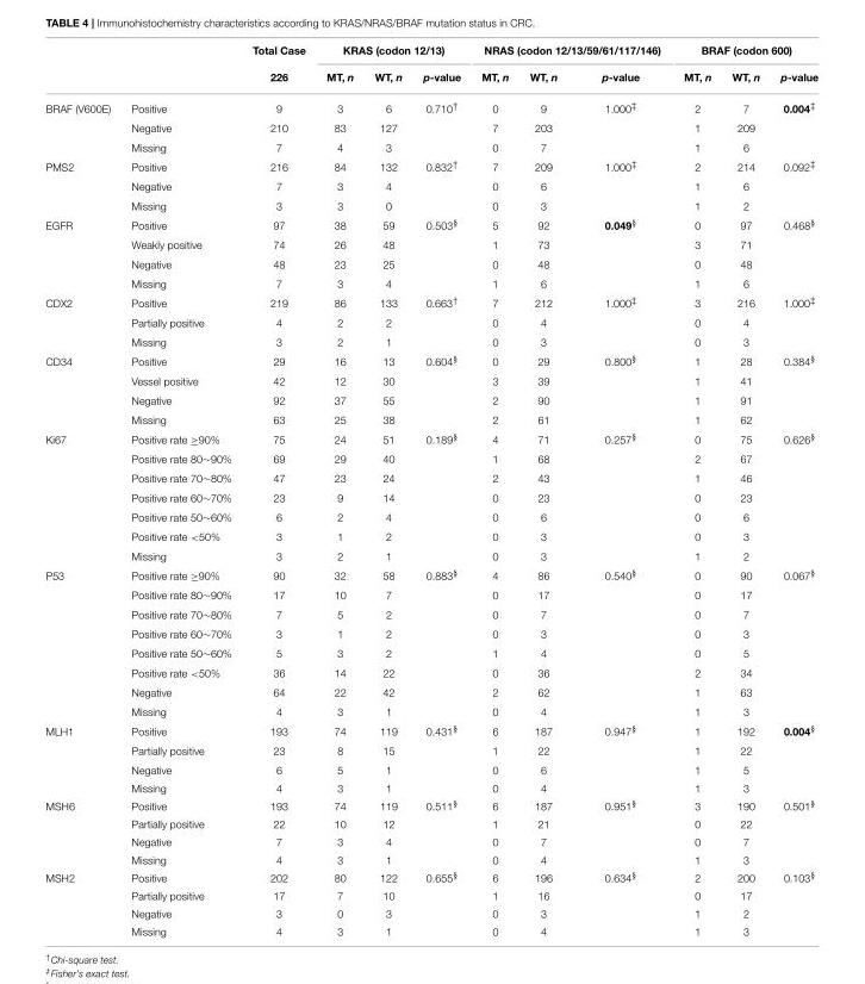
<table><thead><tr><td rowspan="2"></td><td rowspan="2"></td><td rowspan="2">Total Case 226</td><td colspan="3">KRAS (codon 12/13)</td><td colspan="3">NRAS (codon 12/13/59/61/117/146)</td><td colspan="3">BRAF (codon 600)</td></tr><tr><td>MT, n</td><td>WT, n</td><td>p-value</td><td>MT, n</td><td>WT, n</td><td>p-value</td><td>MT, n</td><td>WT, n</td><td>p-value</td></tr></thead><tbody><tr><td rowspan="3">BRAF (V600E)</td><td>Positive</td><td>9</td><td>3</td><td>6</td><td>0.710<sup>†</sup></td><td>0</td><td>9</td><td>1.000<sup>‡</sup></td><td>2</td><td>7</td><td>0.004<sup>‡</sup></td></tr><tr><td>Negative</td><td>210</td><td>83</td><td>127</td><td></td><td>7</td><td>203</td><td></td><td>1</td><td>209</td><td></td></tr><tr><td>Missing</td><td>7</td><td>4</td><td>3</td><td></td><td>0</td><td>7</td><td></td><td>1</td><td>6</td><td></td></tr><tr><td rowspan="3">PMS2</td><td>Positive</td><td>216</td><td>84</td><td>132</td><td>0.832<sup>†</sup></td><td>7</td><td>209</td><td>1.000<sup>‡</sup></td><td>2</td><td>214</td><td>0.092<sup>‡</sup></td></tr><tr><td>Negative</td><td>7</td><td>3</td><td>4</td><td></td><td>0</td><td>6</td><td></td><td>1</td><td>6</td><td></td></tr><tr><td>Missing</td><td>3</td><td>3</td><td>0</td><td></td><td>0</td><td>3</td><td></td><td>1</td><td>2</td><td></td></tr><tr><td rowspan="4">EGFR</td><td>Positive</td><td>97</td><td>38</td><td>59</td><td>0.503<sup>§</sup></td><td>5</td><td>92</td><td>0.049<sup>§</sup></td><td>0</td><td>97</td><td>0.468<sup>§</sup></td></tr><tr><td>Weakly positive</td><td>74</td><td>26</td><td>48</td><td></td><td>1</td><td>73</td><td></td><td>3</td><td>71</td><td></td></tr><tr><td>Negative</td><td>48</td><td>23</td><td>25</td><td></td><td>0</td><td>48</td><td></td><td>0</td><td>48</td><td></td></tr><tr><td>Missing</td><td>7</td><td>3</td><td>4</td><td></td><td>1</td><td>6</td><td></td><td>1</td><td>6</td><td></td></tr><tr><td rowspan="3">CDX2</td><td>Positive</td><td>219</td><td>86</td><td>133</td><td>0.663<sup>†</sup></td><td>7</td><td>212</td><td>1.000<sup>‡</sup></td><td>3</td><td>216</td><td>1.000<sup>‡</sup></td></tr><tr><td>Partially positive</td><td>4</td><td>2</td><td>2</td><td></td><td>0</td><td>4</td><td></td><td>0</td><td>4</td><td></td></tr><tr><td>Missing</td><td>3</td><td>2</td><td>1</td><td></td><td>0</td><td>3</td><td></td><td>0</td><td>3</td><td></td></tr><tr><td rowspan="4">CD34</td><td>Positive</td><td>29</td><td>16</td><td>13</td><td>0.604<sup>§</sup></td><td>0</td><td>29</td><td>0.800<sup>§</sup></td><td>1</td><td>28</td><td>0.384<sup>§</sup></td></tr><tr><td>Vessel positive</td><td>42</td><td>12</td><td>30</td><td></td><td>3</td><td>39</td><td></td><td>1</td><td>41</td><td></td></tr><tr><td>Negative</td><td>92</td><td>37</td><td>55</td><td></td><td>2</td><td>90</td><td></td><td>1</td><td>91</td><td></td></tr><tr><td>Missing</td><td>63</td><td>25</td><td>38</td><td></td><td>2</td><td>61</td><td></td><td>1</td><td>62</td><td></td></tr><tr><td rowspan="7">Ki67</td><td>Positive rate ≥90%</td><td>75</td><td>24</td><td>51</td><td>0.189<sup>§</sup></td><td>4</td><td>71</td><td>0.257<sup>§</sup></td><td>0</td><td>75</td><td>0.626<sup>§</sup></td></tr><tr><td>Positive rate 80∼90%</td><td>69</td><td>29</td><td>40</td><td></td><td>1</td><td>68</td><td></td><td>2</td><td>67</td><td></td></tr><tr><td>Positive rate 70∼80%</td><td>47</td><td>23</td><td>24</td><td></td><td>2</td><td>43</td><td></td><td>1</td><td>46</td><td></td></tr><tr><td>Positive rate 60∼70%</td><td>23</td><td>9</td><td>14</td><td></td><td>0</td><td>23</td><td></td><td>0</td><td>23</td><td></td></tr><tr><td>Positive rate 50∼60%</td><td>6</td><td>2</td><td>4</td><td></td><td>0</td><td>6</td><td></td><td>0</td><td>6</td><td></td></tr><tr><td>Positive rate &lt;50%</td><td>3</td><td>1</td><td>2</td><td></td><td>0</td><td>3</td><td></td><td>0</td><td>3</td><td></td></tr><tr><td>Missing</td><td>3</td><td>2</td><td>1</td><td></td><td>0</td><td>3</td><td></td><td>1</td><td>2</td><td></td></tr><tr><td rowspan="8">P53</td><td>Positive rate ≥90%</td><td>90</td><td>32</td><td>58</td><td>0.883<sup>§</sup></td><td>4</td><td>86</td><td>0.540<sup>§</sup></td><td>0</td><td>90</td><td>0.067<sup>§</sup></td></tr><tr><td>Positive rate 80∼90%</td><td>17</td><td>10</td><td>7</td><td></td><td>0</td><td>17</td><td></td><td>0</td><td>17</td><td></td></tr><tr><td>Positive rate 70∼80%</td><td>7</td><td>5</td><td>2</td><td></td><td>0</td><td>7</td><td></td><td>0</td><td>7</td><td></td></tr><tr><td>Positive rate 60∼70%</td><td>3</td><td>1</td><td>2</td><td></td><td>0</td><td>3</td><td></td><td>0</td><td>3</td><td></td></tr><tr><td>Positive rate 50∼60%</td><td>5</td><td>3</td><td>2</td><td></td><td>1</td><td>4</td><td></td><td>0</td><td>5</td><td></td></tr><tr><td>Positive rate &lt;50%</td><td>36</td><td>14</td><td>22</td><td></td><td>0</td><td>36</td><td></td><td>2</td><td>34</td><td></td></tr><tr><td>Negative</td><td>64</td><td>22</td><td>42</td><td></td><td>2</td><td>62</td><td></td><td>1</td><td>63</td><td></td></tr><tr><td>Missing</td><td>4</td><td>3</td><td>1</td><td></td><td>0</td><td>4</td><td></td><td>1</td><td>3</td><td></td></tr><tr><td rowspan="4">MLH1</td><td>Positive</td><td>193</td><td>74</td><td>119</td><td>0.431<sup>§</sup></td><td>6</td><td>187</td><td>0.947<sup>§</sup></td><td>1</td><td>192</td><td>0.004<sup>§</sup></td></tr><tr><td>Partially positive</td><td>23</td><td>8</td><td>15</td><td></td><td>1</td><td>22</td><td></td><td>1</td><td>22</td><td></td></tr><tr><td>Negative</td><td>6</td><td>5</td><td>1</td><td></td><td>0</td><td>6</td><td></td><td>1</td><td>5</td><td></td></tr><tr><td>Missing</td><td>4</td><td>3</td><td>1</td><td></td><td>0</td><td>4</td><td></td><td>1</td><td>3</td><td></td></tr><tr><td rowspan="4">MSH6</td><td>Positive</td><td>193</td><td>74</td><td>119</td><td>0.511<sup>§</sup></td><td>6</td><td>187</td><td>0.951<sup>§</sup></td><td>3</td><td>190</td><td>0.501<sup>§</sup></td></tr><tr><td>Partially positive</td><td>22</td><td>10</td><td>12</td><td></td><td>1</td><td>21</td><td></td><td>0</td><td>22</td><td></td></tr><tr><td>Negative</td><td>7</td><td>3</td><td>4</td><td></td><td>0</td><td>7</td><td></td><td>0</td><td>7</td><td></td></tr><tr><td>Missing</td><td>4</td><td>3</td><td>1</td><td></td><td>0</td><td>4</td><td></td><td>1</td><td>3</td><td></td></tr><tr><td rowspan="4">MSH2</td><td>Positive</td><td>202</td><td>80</td><td>122</td><td>0.655<sup>§</sup></td><td>6</td><td>196</td><td>0.634<sup>§</sup></td><td>2</td><td>200</td><td>0.103<sup>§</sup></td></tr><tr><td>Partially positive</td><td>17</td><td>7</td><td>10</td><td></td><td>1</td><td>16</td><td></td><td>0</td><td>17</td><td></td></tr><tr><td>Negative</td><td>3</td><td>0</td><td>3</td><td></td><td>0</td><td>3</td><td></td><td>1</td><td>2</td><td></td></tr><tr><td>Missing</td><td>4</td><td>3</td><td>1</td><td></td><td>0</td><td>4</td><td></td><td>1</td><td>3</td><td></td></tr></tbody></table>